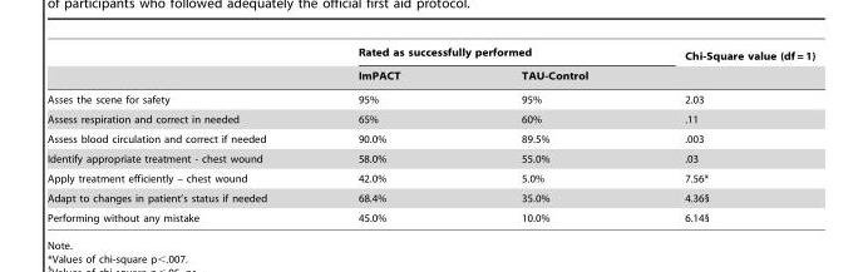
<table><thead><tr><td rowspan="2"></td><td colspan="2">Rated as successfully performed</td><td rowspan="2">Chi-Square value (df = 1)</td></tr><tr><td>ImPACT</td><td>TAU-Control</td></tr></thead><tbody><tr><td>Asses the scene for safety</td><td>95%</td><td>95%</td><td>2.03</td></tr><tr><td>Assess respiration and correct in needed</td><td>65%</td><td>60%</td><td>.11</td></tr><tr><td>Assess blood circulation and correct if needed</td><td>90.0%</td><td>89.5%</td><td>.003</td></tr><tr><td>Identify appropriate treatment - chest wound</td><td>58.0%</td><td>55.0%</td><td>.03</td></tr><tr><td>Apply treatment efficiently – chest wound</td><td>42.0%</td><td>5.0%</td><td>7.56*</td></tr><tr><td>Adapt to changes in patient’s status if needed</td><td>68.4%</td><td>35.0%</td><td>4.36§</td></tr><tr><td>Performing without any mistake</td><td>45.0%</td><td>10.0%</td><td>6.14§</td></tr></tbody></table>